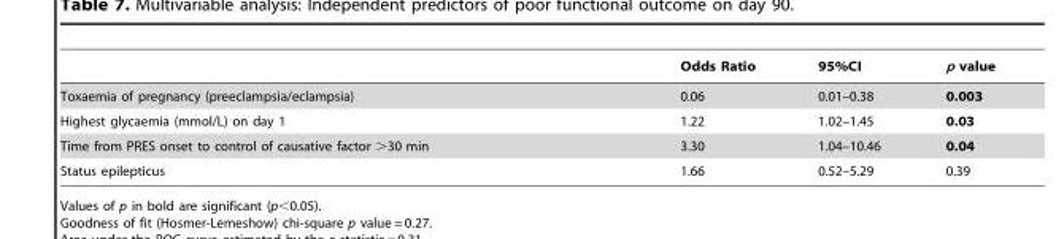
<table><thead><tr><td></td><td>Odds Ratio</td><td>95%CI</td><td>p value</td></tr></thead><tbody><tr><td>Toxaemia of pregnancy (preeclampsia/eclampsia)</td><td>0.06</td><td>0.01–0.38</td><td>0.003</td></tr><tr><td>Highest glycaemia (mmol/L) on day 1</td><td>1.22</td><td>1.02–1.45</td><td>0.03</td></tr><tr><td>Time from PRES onset to control of causative factor &gt;30 min</td><td>3.30</td><td>1.04–10.46</td><td>0.04</td></tr><tr><td>Status epilepticus</td><td>1.66</td><td>0.52–5.29</td><td>0.39</td></tr></tbody></table>